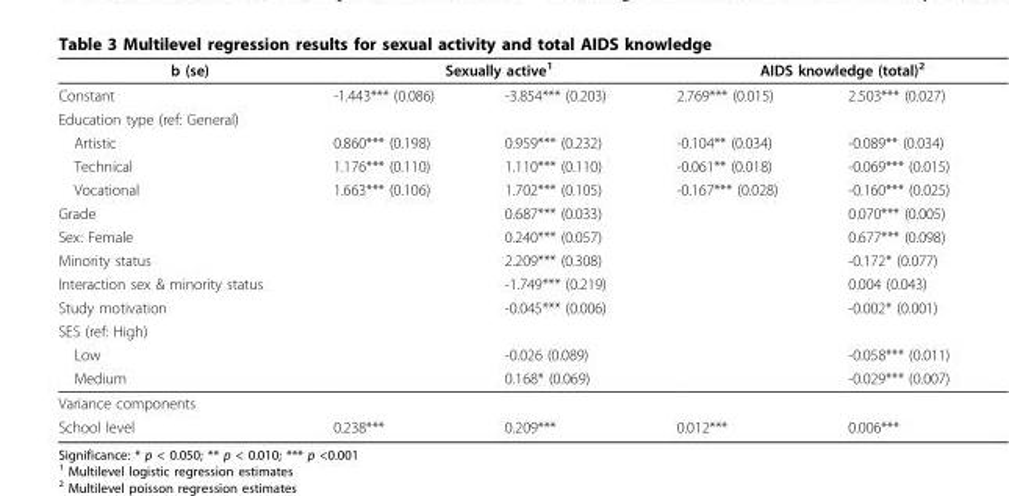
<table><thead><tr><td rowspan="2">b (se) Constant</td><td colspan="2">Sexually active<sup>1</sup></td><td colspan="2">AIDS knowledge (total)<sup>2</sup></td></tr><tr><td>-1.443*** (0.086)</td><td>-3.854*** (0.203)</td><td>2.769*** (0.015)</td><td>2.503*** (0.027)</td></tr></thead><tbody><tr><td colspan="5">Education type (ref: General)</td></tr><tr><td>Artistic</td><td>0.860*** (0.198)</td><td>0.959*** (0.232)</td><td>-0.104** (0.034)</td><td>-0.089** (0.034)</td></tr><tr><td>Technical</td><td>1.176*** (0.110)</td><td>1.110*** (0.110)</td><td>-0.061** (0.018)</td><td>-0.069*** (0.015)</td></tr><tr><td>Vocational</td><td>1.663*** (0.106)</td><td>1.702*** (0.105)</td><td>-0.167*** (0.028)</td><td>-0.160*** (0.025)</td></tr><tr><td>Grade</td><td></td><td>0.687*** (0.033)</td><td></td><td>0.070*** (0.005)</td></tr><tr><td>Sex: Female</td><td></td><td>0.240*** (0.057)</td><td></td><td>0.677*** (0.098)</td></tr><tr><td>Minority status</td><td></td><td>2.209*** (0.308)</td><td></td><td>-0.172* (0.077)</td></tr><tr><td>Interaction sex &amp; minority status</td><td></td><td>-1.749*** (0.219)</td><td></td><td>0.004 (0.043)</td></tr><tr><td>Study motivation</td><td></td><td>-0.045*** (0.006)</td><td></td><td>-0.002* (0.001)</td></tr><tr><td colspan="5">SES (ref: High)</td></tr><tr><td>Low</td><td></td><td>-0.026 (0.089)</td><td></td><td>-0.058*** (0.011)</td></tr><tr><td>Medium</td><td></td><td>0.168* (0.069)</td><td></td><td>-0.029*** (0.007)</td></tr><tr><td colspan="5">Variance components</td></tr><tr><td>School level</td><td>0.238***</td><td>0.209***</td><td>0.012***</td><td>0.006***</td></tr></tbody></table>